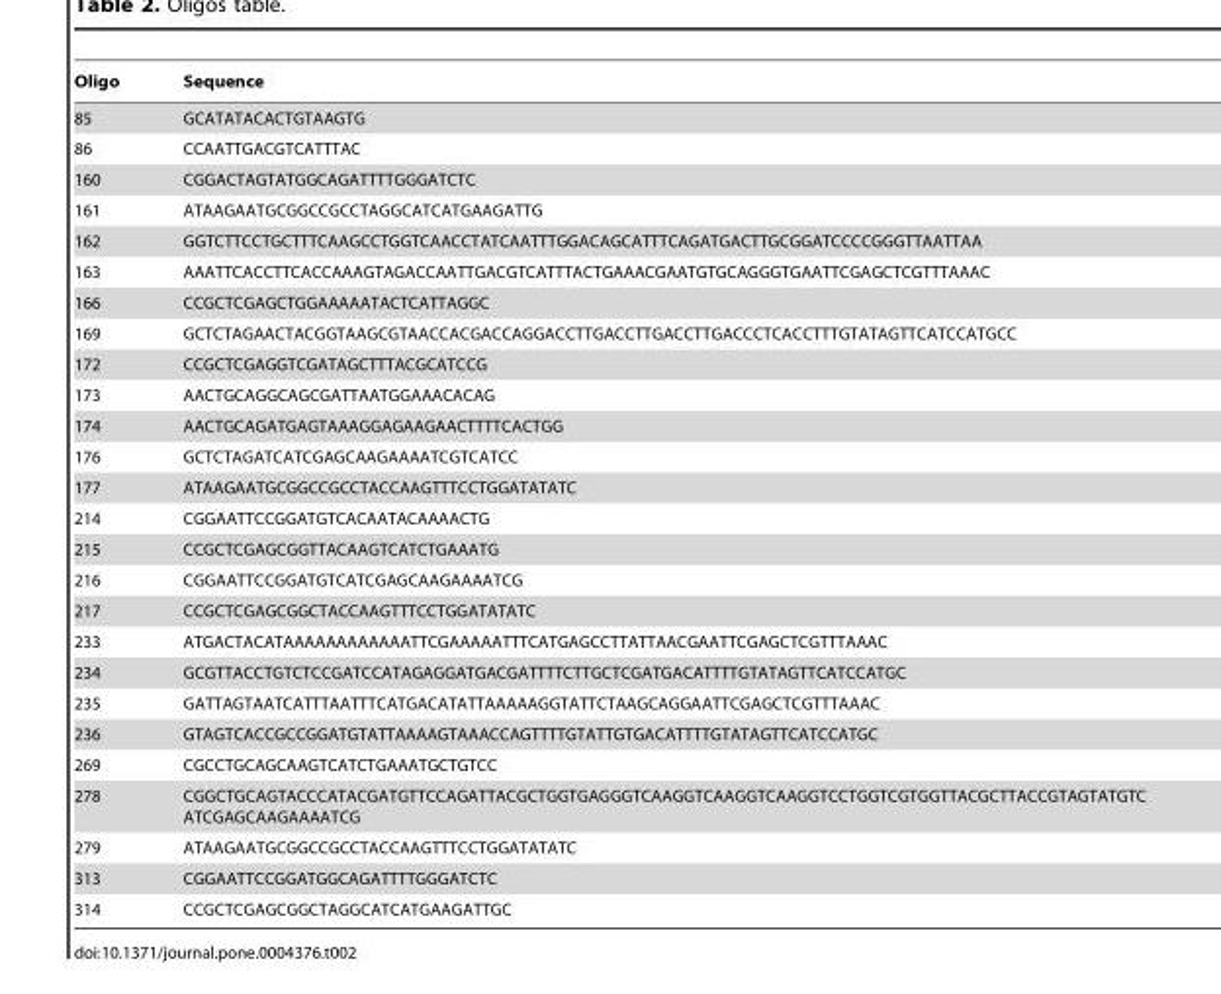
<table><thead><tr><td>Oligo</td><td>Sequence</td></tr></thead><tbody><tr><td>85</td><td>GCATATACACTGTAAGTG</td></tr><tr><td>86</td><td>CCAATTGACGTCATTTAC</td></tr><tr><td>160</td><td>CGGACTAGTATGGCAGATTTTGGGATCTC</td></tr><tr><td>161</td><td>ATAAGAATGCGGCCGCCTAGGCATCATGAAGATTG</td></tr><tr><td>162</td><td>GGTCTTCCTGCTTTCAAGCCTGGTCAACCTATCAATTTGGACAGCATTTCAGATGACTTGCGGATCCCCGGGTTAATTAA</td></tr><tr><td>163</td><td>AAATTCACCTTCACCAAAGTAGACCAATTGACGTCATTTACTGAAACGAATGTGCAGGGTGAATTCGAGCTCGTTTAAAC</td></tr><tr><td>166</td><td>CCGCTCGAGCTGGAAAAATACTCATTAGGC</td></tr><tr><td>169</td><td>GCTCTAGAACTACGGTAAGCGTAACCACGACCAGGACCTTGACCTTGACCTTGACCCTCACCTTTGTATAGTTCATCCATGCC</td></tr><tr><td>172</td><td>CCGCTCGAGGTCGATAGCTTTACGCATCCG</td></tr><tr><td>173</td><td>AACTGCAGGCAGCGATTAATGGAAACACAG</td></tr><tr><td>174</td><td>AACTGCAGATGAGTAAAGGAGAAGAACTTTTCACTGG</td></tr><tr><td>176</td><td>GCTCTAGATCATCGAGCAAGAAAATCGTCATCC</td></tr><tr><td>177</td><td>ATAAGAATGCGGCCGCCTACCAAGTTTCCTGGATATATC</td></tr><tr><td>214</td><td>CGGAATTCCGGATGTCACAATACAAAACTG</td></tr><tr><td>215</td><td>CCGCTCGAGCGGTTACAAGTCATCTGAAATG</td></tr><tr><td>216</td><td>CGGAATTCCGGATGTCATCGAGCAAGAAAATCG</td></tr><tr><td>217</td><td>CCGCTCGAGCGGCTACCAAGTTTCCTGGATATATC</td></tr><tr><td>233</td><td>ATGACTACATAAAAAAAAAAAATTCGAAAAATTTCATGAGCCTTATTAACGAATTCGAGCTCGTTTAAAC</td></tr><tr><td>234</td><td>GCGTTACCTGTCTCCGATCCATAGAGGATGACGATTTTCTTGCTCGATGACATTTTGTATAGTTCATCCATGC</td></tr><tr><td>235</td><td>GATTAGTAATCATTTAATTTCATGACATATTAAAAAGGTATTCTAAGCAGGAATTCGAGCTCGTTTAAAC</td></tr><tr><td>236</td><td>GTAGTCACCGCCGGATGTATTAAAAGTAAACCAGTTTTGTATTGTGACATTTTGTATAGTTCATCCATGC</td></tr><tr><td>269</td><td>CGCCTGCAGCAAGTCATCTGAAATGCTGTCC</td></tr><tr><td>278</td><td>CGGCTGCAGTACCCATACGATGTTCCAGATTACGCTGGTGAGGGTCAAGGTCAAGGTCAAGGTCCTGGTCGTGGTTACGCTTACCGTAGTATGTC ATCGAGCAAGAAAATCG</td></tr><tr><td>279</td><td>ATAAGAATGCGGCCGCCTACCAAGTTTCCTGGATATATC</td></tr><tr><td>313</td><td>CGGAATTCCGGATGGCAGATTTTGGGATCTC</td></tr><tr><td>314</td><td>CCGCTCGAGCGGCTAGGCATCATGAAGATTGC</td></tr></tbody></table>